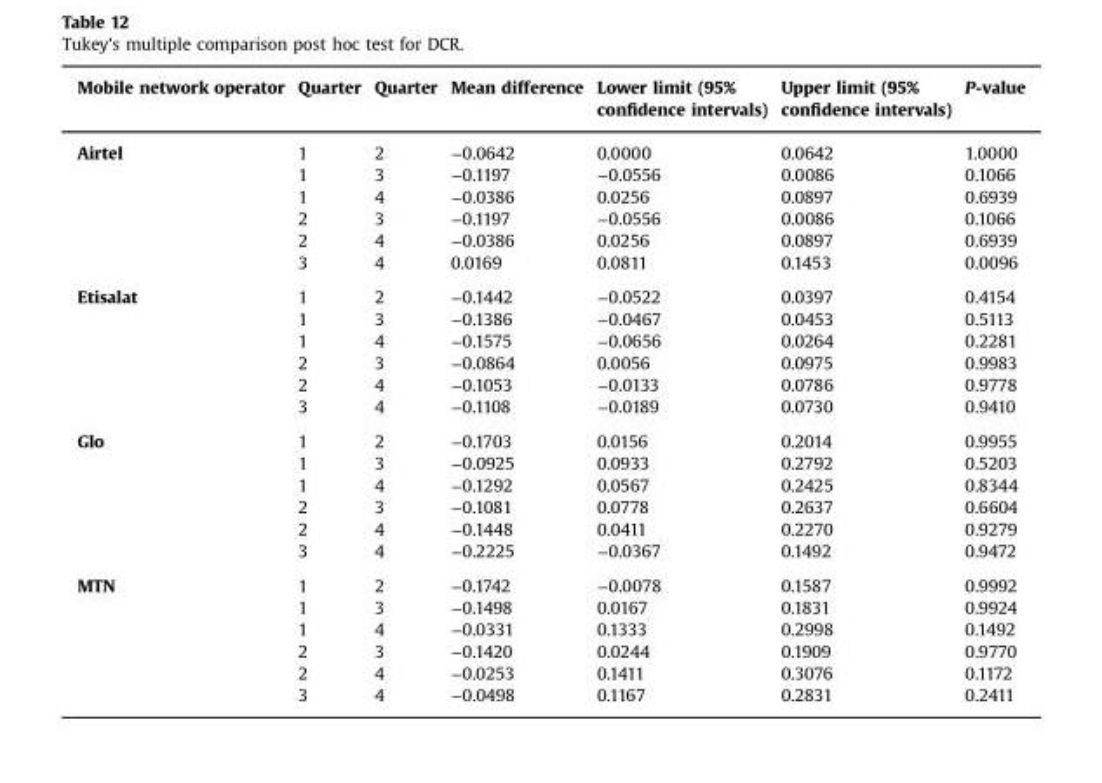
<table><thead><tr><td>Mobile network operator</td><td>Quarter</td><td>Quarter</td><td>Mean difference</td><td>Lower limit (95% confidence intervals)</td><td>Upper limit (95% confidence intervals)</td><td>P-value</td></tr></thead><tbody><tr><td rowspan="6">Airtel</td><td>1</td><td>2</td><td>−0.0642</td><td>0.0000</td><td>0.0642</td><td>1.0000</td></tr><tr><td>1</td><td>3</td><td>−0.1197</td><td>−0.0556</td><td>0.0086</td><td>0.1066</td></tr><tr><td>1</td><td>4</td><td>−0.0386</td><td>0.0256</td><td>0.0897</td><td>0.6939</td></tr><tr><td>2</td><td>3</td><td>−0.1197</td><td>−0.0556</td><td>0.0086</td><td>0.1066</td></tr><tr><td>2</td><td>4</td><td>−0.0386</td><td>0.0256</td><td>0.0897</td><td>0.6939</td></tr><tr><td>3</td><td>4</td><td>0.0169</td><td>0.0811</td><td>0.1453</td><td>0.0096</td></tr><tr><td rowspan="6">Etisalat</td><td>1</td><td>2</td><td>−0.1442</td><td>−0.0522</td><td>0.0397</td><td>0.4154</td></tr><tr><td>1</td><td>3</td><td>−0.1386</td><td>−0.0467</td><td>0.0453</td><td>0.5113</td></tr><tr><td>1</td><td>4</td><td>−0.1575</td><td>−0.0656</td><td>0.0264</td><td>0.2281</td></tr><tr><td>2</td><td>3</td><td>−0.0864</td><td>0.0056</td><td>0.0975</td><td>0.9983</td></tr><tr><td>2</td><td>4</td><td>−0.1053</td><td>−0.0133</td><td>0.0786</td><td>0.9778</td></tr><tr><td>3</td><td>4</td><td>−0.1108</td><td>−0.0189</td><td>0.0730</td><td>0.9410</td></tr><tr><td rowspan="6">Glo</td><td>1</td><td>2</td><td>−0.1703</td><td>0.0156</td><td>0.2014</td><td>0.9955</td></tr><tr><td>1</td><td>3</td><td>−0.0925</td><td>0.0933</td><td>0.2792</td><td>0.5203</td></tr><tr><td>1</td><td>4</td><td>−0.1292</td><td>0.0567</td><td>0.2425</td><td>0.8344</td></tr><tr><td>2</td><td>3</td><td>−0.1081</td><td>0.0778</td><td>0.2637</td><td>0.6604</td></tr><tr><td>2</td><td>4</td><td>−0.1448</td><td>0.0411</td><td>0.2270</td><td>0.9279</td></tr><tr><td>3</td><td>4</td><td>−0.2225</td><td>−0.0367</td><td>0.1492</td><td>0.9472</td></tr><tr><td rowspan="6">MTN</td><td>1</td><td>2</td><td>−0.1742</td><td>−0.0078</td><td>0.1587</td><td>0.9992</td></tr><tr><td>1</td><td>3</td><td>−0.1498</td><td>0.0167</td><td>0.1831</td><td>0.9924</td></tr><tr><td>1</td><td>4</td><td>−0.0331</td><td>0.1333</td><td>0.2998</td><td>0.1492</td></tr><tr><td>2</td><td>3</td><td>−0.1420</td><td>0.0244</td><td>0.1909</td><td>0.9770</td></tr><tr><td>2</td><td>4</td><td>−0.0253</td><td>0.1411</td><td>0.3076</td><td>0.1172</td></tr><tr><td>3</td><td>4</td><td>−0.0498</td><td>0.1167</td><td>0.2831</td><td>0.2411</td></tr></tbody></table>